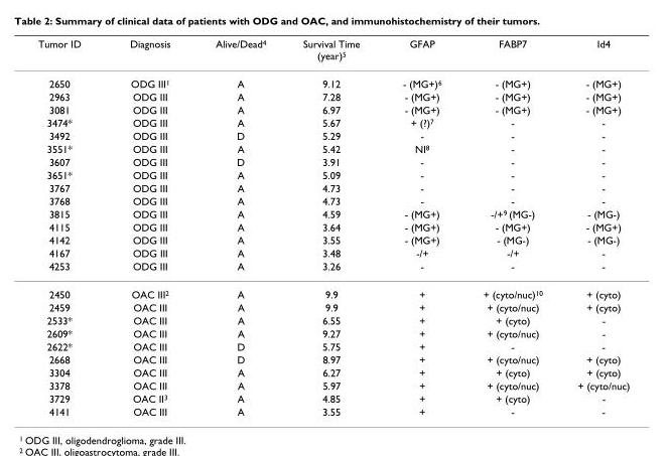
<table><thead><tr><td>Tumor ID</td><td>Diagnosis</td><td>Alive/Dead<sup>4</sup></td><td>Survival Time (year)<sup>5</sup></td><td>GFAP</td><td>FABP7</td><td>Id4</td></tr></thead><tbody><tr><td>2650</td><td>ODG III<sup>1</sup></td><td>A</td><td>9.12</td><td>- (MG+)<sup>6</sup></td><td>- (MG+)</td><td>- (MG+)</td></tr><tr><td>2963</td><td>ODG III</td><td>A</td><td>7.28</td><td>- (MG+)</td><td>- (MG+)</td><td>- (MG+)</td></tr><tr><td>3081</td><td>ODG III</td><td>A</td><td>6.97</td><td>- (MG+)</td><td>- (MG+)</td><td>- (MG+)</td></tr><tr><td>3474*</td><td>ODG III</td><td>A</td><td>5.67</td><td>+ (?)<sup>7</sup></td><td>-</td><td>-</td></tr><tr><td>3492</td><td>ODG III</td><td>D</td><td>5.29</td><td>-</td><td>-</td><td>-</td></tr><tr><td>3551*</td><td>ODG III</td><td>A</td><td>5.42</td><td>NI<sup>8</sup></td><td>-</td><td>-</td></tr><tr><td>3607</td><td>ODG III</td><td>D</td><td>3.91</td><td>-</td><td>-</td><td>-</td></tr><tr><td>3651*</td><td>ODG III</td><td>A</td><td>5.09</td><td>-</td><td>-</td><td>-</td></tr><tr><td>3767</td><td>ODG III</td><td>A</td><td>4.73</td><td>-</td><td>-</td><td>-</td></tr><tr><td>3768</td><td>ODG III</td><td>A</td><td>4.73</td><td>-</td><td>-</td><td>-</td></tr><tr><td>3815</td><td>ODG III</td><td>A</td><td>4.59</td><td>- (MG+)</td><td>-/+<sup>9</sup> (MG-)</td><td>- (MG-)</td></tr><tr><td>4115</td><td>ODG III</td><td>A</td><td>3.64</td><td>- (MG+)</td><td>- (MG+)</td><td>- (MG+)</td></tr><tr><td>4142</td><td>ODG III</td><td>A</td><td>3.55</td><td>- (MG+)</td><td>- (MG-)</td><td>- (MG-)</td></tr><tr><td>4167</td><td>ODG III</td><td>A</td><td>3.48</td><td>-/+</td><td>-/+</td><td>-</td></tr><tr><td>4253</td><td>ODG III</td><td>A</td><td>3.26</td><td>-</td><td>-</td><td>-</td></tr><tr><td>2450</td><td>OAC III<sup>2</sup></td><td>A</td><td>9.9</td><td>+</td><td>+ (cyto/nuc)<sup>10</sup></td><td>+ (cyto)</td></tr><tr><td>2459</td><td>OAC III</td><td>A</td><td>9.9</td><td>+</td><td>+ (cyto/nuc)</td><td>+ (cyto)</td></tr><tr><td>2533*</td><td>OAC III</td><td>A</td><td>6.55</td><td>+</td><td>+ (cyto)</td><td>-</td></tr><tr><td>2609*</td><td>OAC III</td><td>A</td><td>9.27</td><td>+</td><td>+ (cyto/nuc)</td><td>-</td></tr><tr><td>2622*</td><td>OAC III</td><td>D</td><td>5.75</td><td>+</td><td>-</td><td>-</td></tr><tr><td>2668</td><td>OAC III</td><td>D</td><td>8.97</td><td>+</td><td>+ (cyto/nuc)</td><td>+ (cyto)</td></tr><tr><td>3304</td><td>OAC III</td><td>A</td><td>6.27</td><td>+</td><td>+ (cyto)</td><td>+ (cyto)</td></tr><tr><td>3378</td><td>OAC III</td><td>A</td><td>5.97</td><td>+</td><td>+ (cyto/nuc)</td><td>+ (cyto/nuc)</td></tr><tr><td>3729</td><td>OAC II<sup>3</sup></td><td>A</td><td>4.85</td><td>+</td><td>+ (cyto)</td><td>-</td></tr><tr><td>4141</td><td>OAC III</td><td>A</td><td>3.55</td><td>+</td><td>-</td><td>-</td></tr></tbody></table>